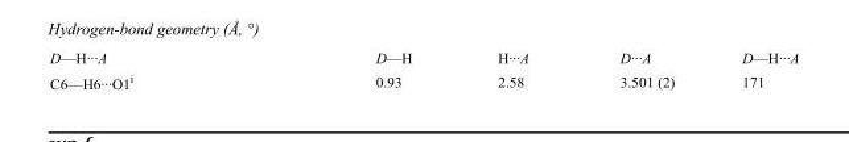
<table><tbody><tr><td>D—H···A</td><td>D—H</td><td>H···A</td><td>D···A</td><td>D—H···A</td></tr><tr><td>C6—H6···O1<sup>i</sup></td><td>0.93</td><td>2.58</td><td>3.501 (2)</td><td>171</td></tr></tbody></table>